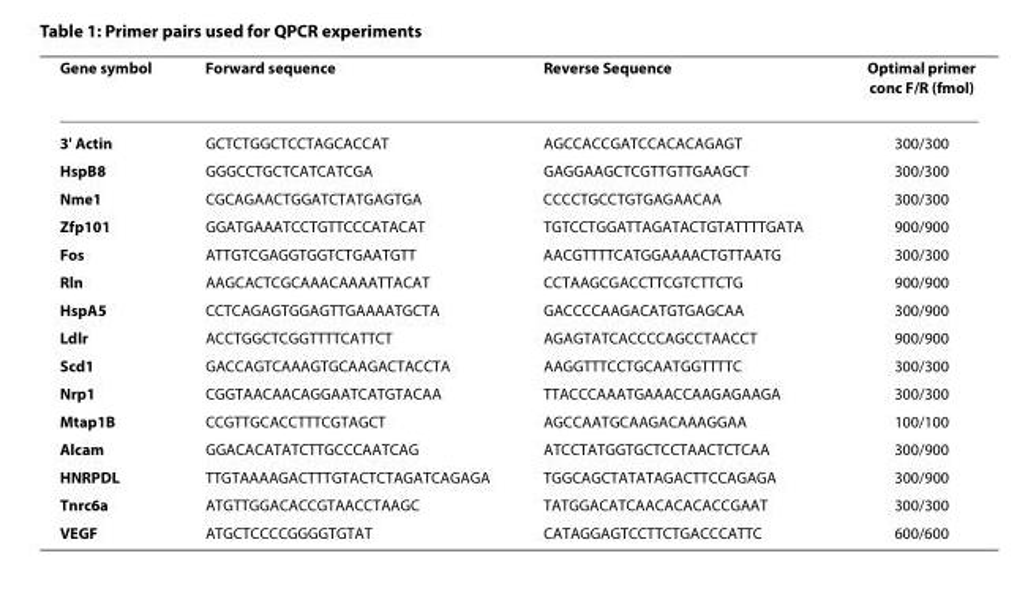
<table><thead><tr><td>Gene symbol</td><td>Forward sequence</td><td>Reverse Sequence</td><td>Optimal primer conc F/R (fmol)</td></tr></thead><tbody><tr><td>3&#x27; Actin</td><td>GCTCTGGCTCCTAGCACCAT</td><td>AGCCACCGATCCACACAGAGT</td><td>300/300</td></tr><tr><td>HspB8</td><td>GGGCCTGCTCATCATCGA</td><td>GAGGAAGCTCGTTGTTGAAGCT</td><td>300/300</td></tr><tr><td>Nme1</td><td>CGCAGAACTGGATCTATGAGTGA</td><td>CCCCTGCCTGTGAGAACAA</td><td>300/300</td></tr><tr><td>Zfp101</td><td>GGATGAAATCCTGTTCCCATACAT</td><td>TGTCCTGGATTAGATACTGTATTTTGATA</td><td>900/900</td></tr><tr><td>Fos</td><td>ATTGTCGAGGTGGTCTGAATGTT</td><td>AACGTTTTCATGGAAAACTGTTAATG</td><td>300/300</td></tr><tr><td>Rln</td><td>AAGCACTCGCAAACAAAATTACAT</td><td>CCTAAGCGACCTTCGTCTTCTG</td><td>900/900</td></tr><tr><td>HspA5</td><td>CCTCAGAGTGGAGTTGAAAATGCTA</td><td>GACCCCAAGACATGTGAGCAA</td><td>300/900</td></tr><tr><td>Ldlr</td><td>ACCTGGCTCGGTTTTCATTCT</td><td>AGAGTATCACCCCAGCCTAACCT</td><td>900/900</td></tr><tr><td>Scd1</td><td>GACCAGTCAAAGTGCAAGACTACCTA</td><td>AAGGTTTCCTGCAATGGTTTTC</td><td>300/300</td></tr><tr><td>Nrp1</td><td>CGGTAACAACAGGAATCATGTACAA</td><td>TTACCCAAATGAAACCAAGAGAAGA</td><td>300/300</td></tr><tr><td>Mtap1B</td><td>CCGTTGCACCTTTCGTAGCT</td><td>AGCCAATGCAAGACAAAGGAA</td><td>100/100</td></tr><tr><td>Alcam</td><td>GGACACATATCTTGCCCAATCAG</td><td>ATCCTATGGTGCTCCTAACTCTCAA</td><td>300/900</td></tr><tr><td>HNRPDL</td><td>TTGTAAAAGACTTTGTACTCTAGATCAGAGA</td><td>TGGCAGCTATATAGACTTCCAGAGA</td><td>300/900</td></tr><tr><td>Tnrc6a</td><td>ATGTTGGACACCGTAACCTAAGC</td><td>TATGGACATCAACACACACCGAAT</td><td>300/300</td></tr><tr><td>VEGF</td><td>ATGCTCCCCGGGGTGTAT</td><td>CATAGGAGTCCTTCTGACCCATTC</td><td>600/600</td></tr></tbody></table>